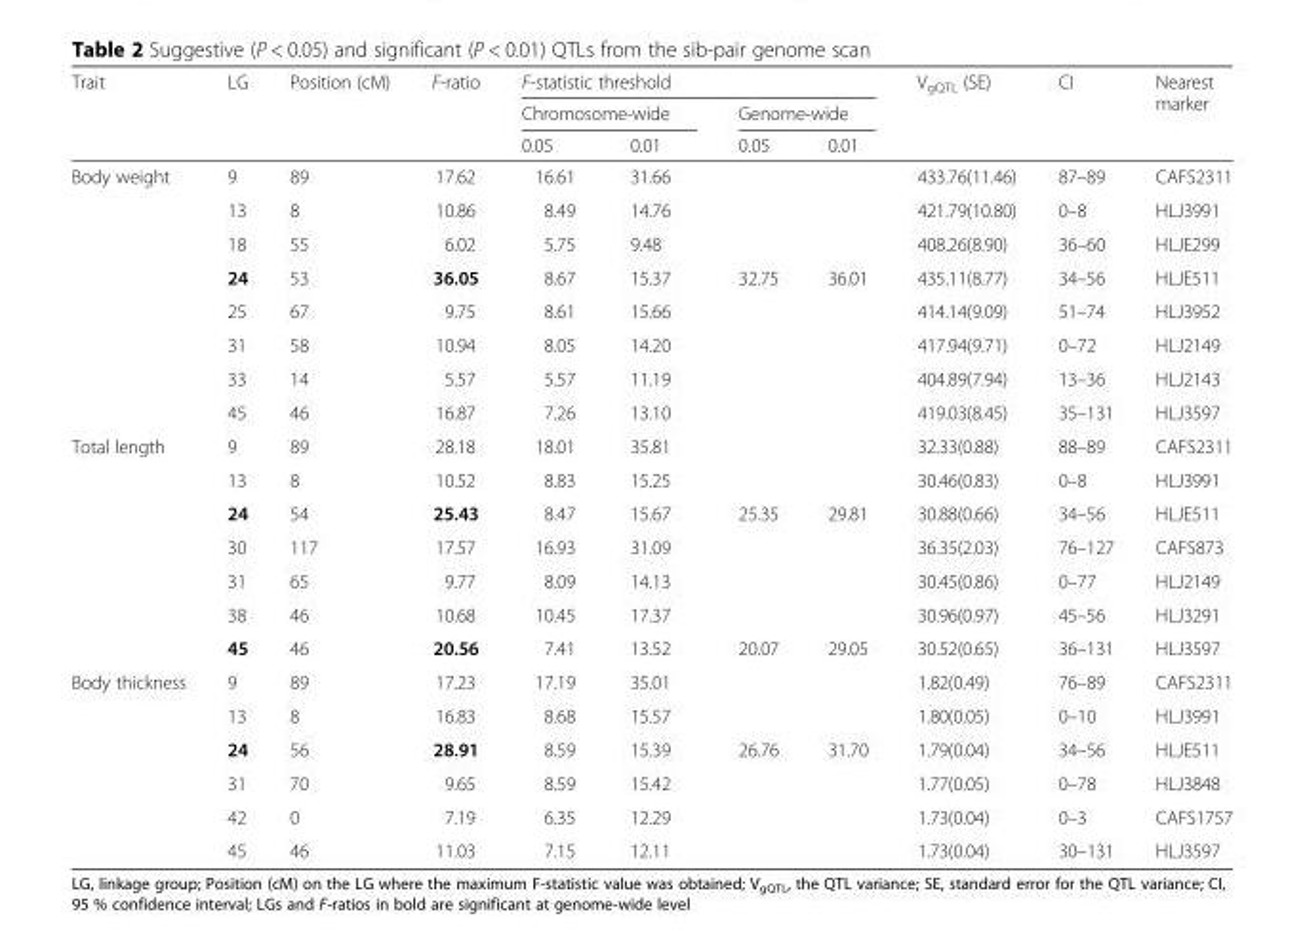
<table><thead><tr><td rowspan="3">Trait</td><td rowspan="3">LG</td><td rowspan="3">Position (cM)</td><td rowspan="3">F-ratio</td><td colspan="4">F-statistic threshold</td><td rowspan="3">V<sub>gQTL</sub> (SE)</td><td rowspan="3">CI</td><td rowspan="3">Nearest marker</td></tr><tr><td colspan="2">Chromosome-wide</td><td colspan="2">Genome-wide</td></tr><tr><td>0.05</td><td>0.01</td><td>0.05</td><td>0.01</td></tr></thead><tbody><tr><td rowspan="8">Body weight</td><td>9</td><td>89</td><td>17.62</td><td>16.61</td><td>31.66</td><td></td><td></td><td>433.76(11.46)</td><td>87–89</td><td>CAFS2311</td></tr><tr><td>13</td><td>8</td><td>10.86</td><td>8.49</td><td>14.76</td><td></td><td></td><td>421.79(10.80)</td><td>0–8</td><td>HLJ3991</td></tr><tr><td>18</td><td>55</td><td>6.02</td><td>5.75</td><td>9.48</td><td></td><td></td><td>408.26(8.90)</td><td>36–60</td><td>HLJE299</td></tr><tr><td>24</td><td>53</td><td>36.05</td><td>8.67</td><td>15.37</td><td>32.75</td><td>36.01</td><td>435.11(8.77)</td><td>34–56</td><td>HLJE511</td></tr><tr><td>25</td><td>67</td><td>9.75</td><td>8.61</td><td>15.66</td><td></td><td></td><td>414.14(9.09)</td><td>51–74</td><td>HLJ3952</td></tr><tr><td>31</td><td>58</td><td>10.94</td><td>8.05</td><td>14.20</td><td></td><td></td><td>417.94(9.71)</td><td>0–72</td><td>HLJ2149</td></tr><tr><td>33</td><td>14</td><td>5.57</td><td>5.57</td><td>11.19</td><td></td><td></td><td>404.89(7.94)</td><td>13–36</td><td>HLJ2143</td></tr><tr><td>45</td><td>46</td><td>16.87</td><td>7.26</td><td>13.10</td><td></td><td></td><td>419.03(8.45)</td><td>35–131</td><td>HLJ3597</td></tr><tr><td rowspan="7">Total length</td><td>9</td><td>89</td><td>28.18</td><td>18.01</td><td>35.81</td><td></td><td></td><td>32.33(0.88)</td><td>88–89</td><td>CAFS2311</td></tr><tr><td>13</td><td>8</td><td>10.52</td><td>8.83</td><td>15.25</td><td></td><td></td><td>30.46(0.83)</td><td>0–8</td><td>HLJ3991</td></tr><tr><td>24</td><td>54</td><td>25.43</td><td>8.47</td><td>15.67</td><td>25.35</td><td>29.81</td><td>30.88(0.66)</td><td>34–56</td><td>HLJE511</td></tr><tr><td>30</td><td>117</td><td>17.57</td><td>16.93</td><td>31.09</td><td></td><td></td><td>36.35(2.03)</td><td>76–127</td><td>CAFS873</td></tr><tr><td>31</td><td>65</td><td>9.77</td><td>8.09</td><td>14.13</td><td></td><td></td><td>30.45(0.86)</td><td>0–77</td><td>HLJ2149</td></tr><tr><td>38</td><td>46</td><td>10.68</td><td>10.45</td><td>17.37</td><td></td><td></td><td>30.96(0.97)</td><td>45–56</td><td>HLJ3291</td></tr><tr><td>45</td><td>46</td><td>20.56</td><td>7.41</td><td>13.52</td><td>20.07</td><td>29.05</td><td>30.52(0.65)</td><td>36–131</td><td>HLJ3597</td></tr><tr><td rowspan="6">Body thickness</td><td>9</td><td>89</td><td>17.23</td><td>17.19</td><td>35.01</td><td></td><td></td><td>1.82(0.49)</td><td>76–89</td><td>CAFS2311</td></tr><tr><td>13</td><td>8</td><td>16.83</td><td>8.68</td><td>15.57</td><td></td><td></td><td>1.80(0.05)</td><td>0–10</td><td>HLJ3991</td></tr><tr><td>24</td><td>56</td><td>28.91</td><td>8.59</td><td>15.39</td><td>26.76</td><td>31.70</td><td>1.79(0.04)</td><td>34–56</td><td>HLJE511</td></tr><tr><td>31</td><td>70</td><td>9.65</td><td>8.59</td><td>15.42</td><td></td><td></td><td>1.77(0.05)</td><td>0–78</td><td>HLJ3848</td></tr><tr><td>42</td><td>0</td><td>7.19</td><td>6.35</td><td>12.29</td><td></td><td></td><td>1.73(0.04)</td><td>0–3</td><td>CAFS1757</td></tr><tr><td>45</td><td>46</td><td>11.03</td><td>7.15</td><td>12.11</td><td></td><td></td><td>1.73(0.04)</td><td>30–131</td><td>HLJ3597</td></tr></tbody></table>